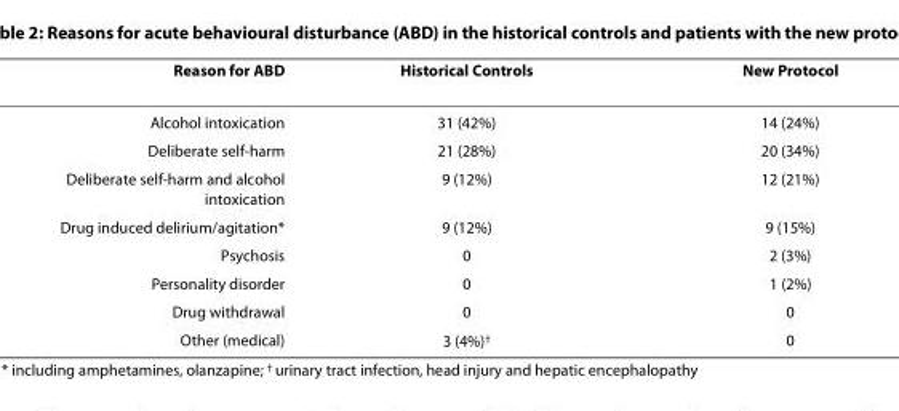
<table><thead><tr><td>Reason for ABD</td><td>Historical Controls</td><td>New Protocol</td></tr></thead><tbody><tr><td>Alcohol intoxication</td><td>31 (42%)</td><td>14 (24%)</td></tr><tr><td>Deliberate self-harm</td><td>21 (28%)</td><td>20 (34%)</td></tr><tr><td>Deliberate self-harm and alcohol intoxication</td><td>9 (12%)</td><td>12 (21%)</td></tr><tr><td>Drug induced delirium/agitation*</td><td>9 (12%)</td><td>9 (15%)</td></tr><tr><td>Psychosis</td><td>0</td><td>2 (3%)</td></tr><tr><td>Personality disorder</td><td>0</td><td>1 (2%)</td></tr><tr><td>Drug withdrawal</td><td>0</td><td>0</td></tr><tr><td>Other (medical)</td><td>3 (4%)<sup>†</sup></td><td>0</td></tr></tbody></table>